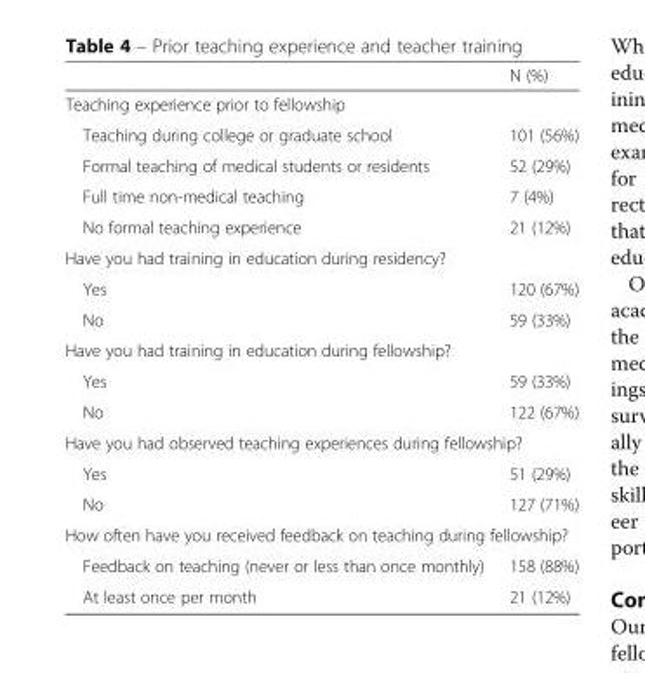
<table><thead><tr><td></td><td>N (%)</td></tr></thead><tbody><tr><td colspan="2">Teaching experience prior to fellowship</td></tr><tr><td>Teaching during college or graduate school</td><td>101 (56%)</td></tr><tr><td>Formal teaching of medical students or residents</td><td>52 (29%)</td></tr><tr><td>Full time non-medical teaching</td><td>7 (4%)</td></tr><tr><td>No formal teaching experience</td><td>21 (12%)</td></tr><tr><td colspan="2">Have you had training in education during residency?</td></tr><tr><td>Yes</td><td>120 (67%)</td></tr><tr><td>No</td><td>59 (33%)</td></tr><tr><td colspan="2">Have you had training in education during fellowship?</td></tr><tr><td>Yes</td><td>59 (33%)</td></tr><tr><td>No</td><td>122 (67%)</td></tr><tr><td colspan="2">Have you had observed teaching experiences during fellowship?</td></tr><tr><td>Yes</td><td>51 (29%)</td></tr><tr><td>No</td><td>127 (71%)</td></tr><tr><td colspan="2">How often have you received feedback on teaching during fellowship?</td></tr><tr><td>Feedback on teaching (never or less than once monthly)</td><td>158 (88%)</td></tr><tr><td>At least once per month</td><td>21 (12%)</td></tr></tbody></table>